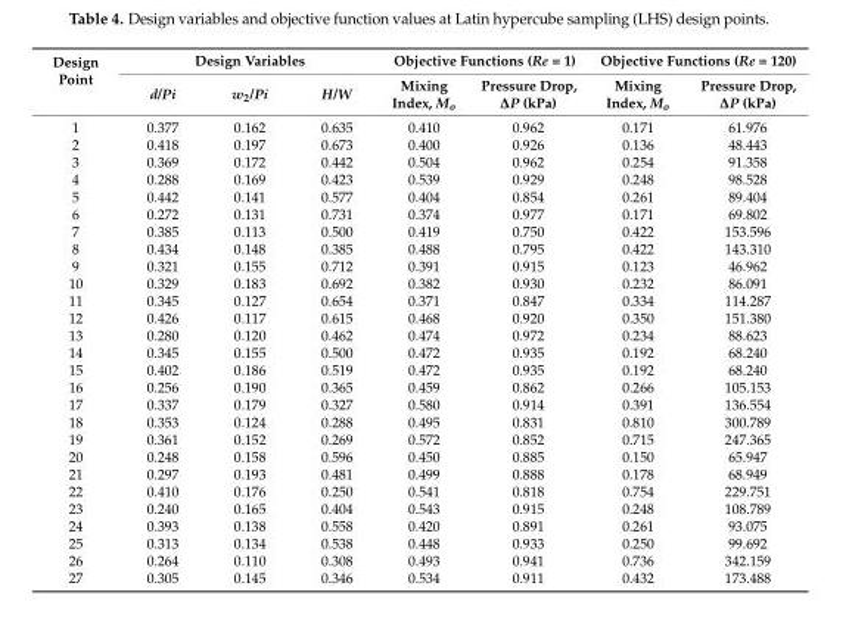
<table><thead><tr><td rowspan="2">Design Point</td><td colspan="3">Design Variables</td><td colspan="2">Objective Functions (Re = 1)</td><td colspan="2">Objective Functions (Re = 120)</td></tr><tr><td>d/Pi</td><td>w<sub>2</sub>/Pi</td><td>H/W</td><td>Mixing Index, M<sub>o</sub></td><td>Pressure Drop, ∆P (kPa)</td><td>Mixing Index, M<sub>o</sub></td><td>Pressure Drop, ∆P (kPa)</td></tr></thead><tbody><tr><td>1</td><td>0.377</td><td>0.162</td><td>0.635</td><td>0.410</td><td>0.962</td><td>0.171</td><td>61.976</td></tr><tr><td>2</td><td>0.418</td><td>0.197</td><td>0.673</td><td>0.400</td><td>0.926</td><td>0.136</td><td>48.443</td></tr><tr><td>3</td><td>0.369</td><td>0.172</td><td>0.442</td><td>0.504</td><td>0.962</td><td>0.254</td><td>91.358</td></tr><tr><td>4</td><td>0.288</td><td>0.169</td><td>0.423</td><td>0.539</td><td>0.929</td><td>0.248</td><td>98.528</td></tr><tr><td>5</td><td>0.442</td><td>0.141</td><td>0.577</td><td>0.404</td><td>0.854</td><td>0.261</td><td>89.404</td></tr><tr><td>6</td><td>0.272</td><td>0.131</td><td>0.731</td><td>0.374</td><td>0.977</td><td>0.171</td><td>69.802</td></tr><tr><td>7</td><td>0.385</td><td>0.113</td><td>0.500</td><td>0.419</td><td>0.750</td><td>0.422</td><td>153.596</td></tr><tr><td>8</td><td>0.434</td><td>0.148</td><td>0.385</td><td>0.488</td><td>0.795</td><td>0.422</td><td>143.310</td></tr><tr><td>9</td><td>0.321</td><td>0.155</td><td>0.712</td><td>0.391</td><td>0.915</td><td>0.123</td><td>46.962</td></tr><tr><td>10</td><td>0.329</td><td>0.183</td><td>0.692</td><td>0.382</td><td>0.930</td><td>0.232</td><td>86.091</td></tr><tr><td>11</td><td>0.345</td><td>0.127</td><td>0.654</td><td>0.371</td><td>0.847</td><td>0.334</td><td>114.287</td></tr><tr><td>12</td><td>0.426</td><td>0.117</td><td>0.615</td><td>0.468</td><td>0.920</td><td>0.350</td><td>151.380</td></tr><tr><td>13</td><td>0.280</td><td>0.120</td><td>0.462</td><td>0.474</td><td>0.972</td><td>0.234</td><td>88.623</td></tr><tr><td>14</td><td>0.345</td><td>0.155</td><td>0.500</td><td>0.472</td><td>0.935</td><td>0.192</td><td>68.240</td></tr><tr><td>15</td><td>0.402</td><td>0.186</td><td>0.519</td><td>0.472</td><td>0.935</td><td>0.192</td><td>68.240</td></tr><tr><td>16</td><td>0.256</td><td>0.190</td><td>0.365</td><td>0.459</td><td>0.862</td><td>0.266</td><td>105.153</td></tr><tr><td>17</td><td>0.337</td><td>0.179</td><td>0.327</td><td>0.580</td><td>0.914</td><td>0.391</td><td>136.554</td></tr><tr><td>18</td><td>0.353</td><td>0.124</td><td>0.288</td><td>0.495</td><td>0.831</td><td>0.810</td><td>300.789</td></tr><tr><td>19</td><td>0.361</td><td>0.152</td><td>0.269</td><td>0.572</td><td>0.852</td><td>0.715</td><td>247.365</td></tr><tr><td>20</td><td>0.248</td><td>0.158</td><td>0.596</td><td>0.450</td><td>0.885</td><td>0.150</td><td>65.947</td></tr><tr><td>21</td><td>0.297</td><td>0.193</td><td>0.481</td><td>0.499</td><td>0.888</td><td>0.178</td><td>68.949</td></tr><tr><td>22</td><td>0.410</td><td>0.176</td><td>0.250</td><td>0.541</td><td>0.818</td><td>0.754</td><td>229.751</td></tr><tr><td>23</td><td>0.240</td><td>0.165</td><td>0.404</td><td>0.543</td><td>0.915</td><td>0.248</td><td>108.789</td></tr><tr><td>24</td><td>0.393</td><td>0.138</td><td>0.558</td><td>0.420</td><td>0.891</td><td>0.261</td><td>93.075</td></tr><tr><td>25</td><td>0.313</td><td>0.134</td><td>0.538</td><td>0.448</td><td>0.933</td><td>0.250</td><td>99.692</td></tr><tr><td>26</td><td>0.264</td><td>0.110</td><td>0.308</td><td>0.493</td><td>0.941</td><td>0.736</td><td>342.159</td></tr><tr><td>27</td><td>0.305</td><td>0.145</td><td>0.346</td><td>0.534</td><td>0.911</td><td>0.432</td><td>173.488</td></tr></tbody></table>